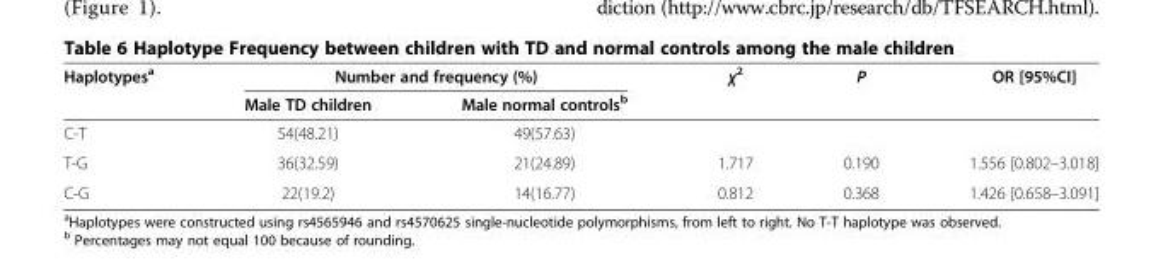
<table><thead><tr><td rowspan="2">Haplotypes<sup>a</sup></td><td colspan="2">Number and frequency (%)</td><td rowspan="2">χ<sup>2</sup></td><td rowspan="2">P</td><td rowspan="2">OR [95%CI]</td></tr><tr><td>Male TD children</td><td>Male normal controls<sup>b</sup></td></tr></thead><tbody><tr><td>C-T</td><td>54(48.21)</td><td>49(57.63)</td><td></td><td></td><td></td></tr><tr><td>T-G</td><td>36(32.59)</td><td>21(24.89)</td><td>1.717</td><td>0.190</td><td>1.556 [0.802–3.018]</td></tr><tr><td>C-G</td><td>22(19.2)</td><td>14(16.77)</td><td>0.812</td><td>0.368</td><td>1.426 [0.658–3.091]</td></tr></tbody></table>